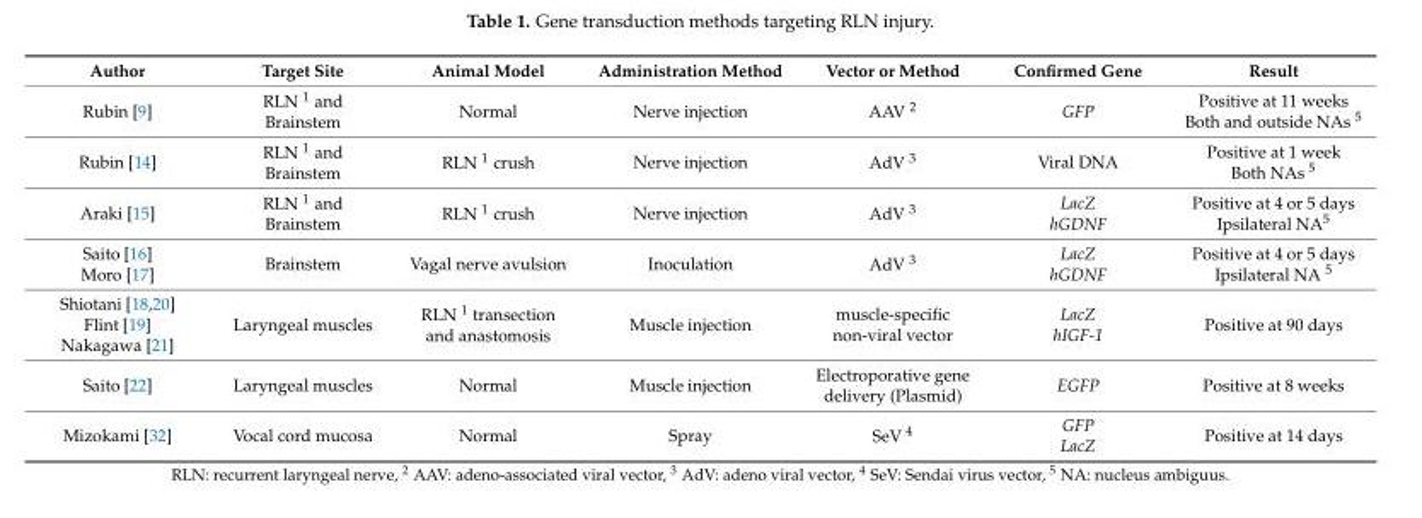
<table><thead><tr><td>Author</td><td>Target Site</td><td>Animal Model</td><td>Administration Method</td><td>Vector or Method</td><td>Confirmed Gene</td><td>Result</td></tr></thead><tbody><tr><td>Rubin [9]</td><td>RLN <sup>1</sup> and Brainstem</td><td>Normal</td><td>Nerve injection</td><td>AAV <sup>2</sup></td><td>GFP</td><td>Positive at 11 weeks Both and outside NAs <sup>5</sup></td></tr><tr><td>Rubin [14]</td><td>RLN <sup>1</sup> and Brainstem</td><td>RLN <sup>1</sup> crush</td><td>Nerve injection</td><td>AdV <sup>3</sup></td><td>Viral DNA</td><td>Positive at 1 week Both NAs <sup>5</sup></td></tr><tr><td>Araki [15]</td><td>RLN <sup>1</sup> and Brainstem</td><td>RLN <sup>1</sup> crush</td><td>Nerve injection</td><td>AdV <sup>3</sup></td><td>LacZ hGDNF</td><td>Positive at 4 or 5 days Ipsilateral NA<sup>5</sup></td></tr><tr><td>Saito [16] Moro [17]</td><td>Brainstem</td><td>Vagal nerve avulsion</td><td>Inoculation</td><td>AdV <sup>3</sup></td><td>LacZ hGDNF</td><td>Positive at 4 or 5 days Ipsilateral NA <sup>5</sup></td></tr><tr><td>Shiotani [18,20] Flint [19] Nakagawa [21]</td><td>Laryngeal muscles</td><td>RLN <sup>1</sup> transection and anastomosis</td><td>Muscle injection</td><td>muscle-specific non-viral vector</td><td>LacZ hIGF-1</td><td>Positive at 90 days</td></tr><tr><td>Saito [22]</td><td>Laryngeal muscles</td><td>Normal</td><td>Muscle injection</td><td>Electroporative gene delivery (Plasmid)</td><td>EGFP</td><td>Positive at 8 weeks</td></tr><tr><td>Mizokami [32]</td><td>Vocal cord mucosa</td><td>Normal</td><td>Spray</td><td>SeV <sup>4</sup></td><td>GFP LacZ</td><td>Positive at 14 days</td></tr></tbody></table>